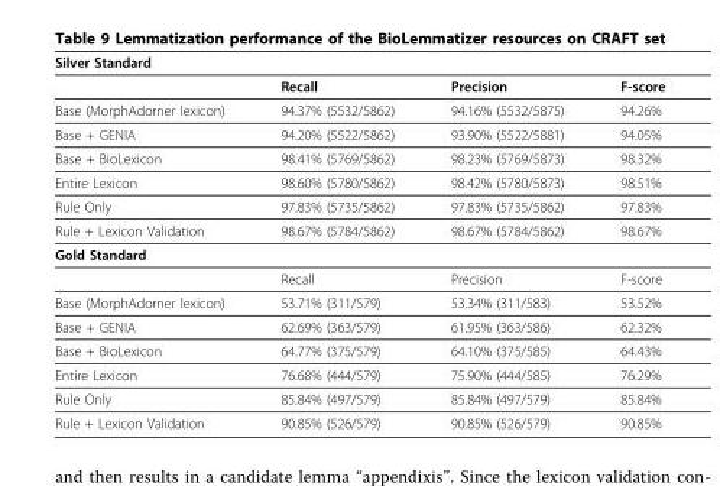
<table><thead><tr><td>Silver Standard</td><td></td><td></td><td></td></tr></thead><tbody><tr><td></td><td>Recall</td><td>Precision</td><td>F-score</td></tr><tr><td>Base (MorphAdorner lexicon)</td><td>94.37% (5532/5862)</td><td>94.16% (5532/5875)</td><td>94.26%</td></tr><tr><td>Base + GENIA</td><td>94.20% (5522/5862)</td><td>93.90% (5522/5881)</td><td>94.05%</td></tr><tr><td>Base + BioLexicon</td><td>98.41% (5769/5862)</td><td>98.23% (5769/5873)</td><td>98.32%</td></tr><tr><td>Entire Lexicon</td><td>98.60% (5780/5862)</td><td>98.42% (5780/5873)</td><td>98.51%</td></tr><tr><td>Rule Only</td><td>97.83% (5735/5862)</td><td>97.83% (5735/5862)</td><td>97.83%</td></tr><tr><td>Rule + Lexicon Validation</td><td>98.67% (5784/5862)</td><td>98.67% (5784/5862)</td><td>98.67%</td></tr><tr><td colspan="4">Gold Standard</td></tr><tr><td></td><td>Recall</td><td>Precision</td><td>F-score</td></tr><tr><td>Base (MorphAdorner lexicon)</td><td>53.71% (311/579)</td><td>53.34% (311/583)</td><td>53.52%</td></tr><tr><td>Base + GENIA</td><td>62.69% (363/579)</td><td>61.95% (363/586)</td><td>62.32%</td></tr><tr><td>Base + BioLexicon</td><td>64.77% (375/579)</td><td>64.10% (375/585)</td><td>64.43%</td></tr><tr><td>Entire Lexicon</td><td>76.68% (444/579)</td><td>75.90% (444/585)</td><td>76.29%</td></tr><tr><td>Rule Only</td><td>85.84% (497/579)</td><td>85.84% (497/579)</td><td>85.84%</td></tr><tr><td>Rule + Lexicon Validation</td><td>90.85% (526/579)</td><td>90.85% (526/579)</td><td>90.85%</td></tr></tbody></table>